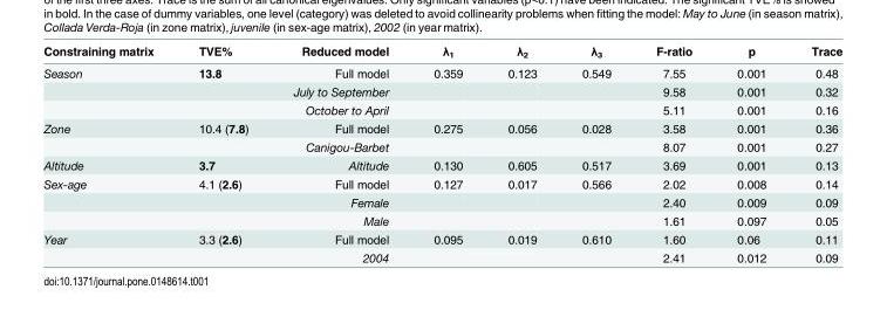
<table><thead><tr><td>Constraining matrix</td><td>TVE%</td><td>Reduced model</td><td>λ<sub>1</sub></td><td>λ<sub>2</sub></td><td>λ<sub>3</sub></td><td>F-ratio</td><td>p</td><td>Trace</td></tr></thead><tbody><tr><td rowspan="3">Season</td><td>13.8</td><td>Full model</td><td>0.359</td><td>0.123</td><td>0.549</td><td>7.55</td><td>0.001</td><td>0.48</td></tr><tr><td></td><td>July to September</td><td></td><td></td><td></td><td>9.58</td><td>0.001</td><td>0.32</td></tr><tr><td></td><td>October to April</td><td></td><td></td><td></td><td>5.11</td><td>0.001</td><td>0.16</td></tr><tr><td rowspan="2">Zone</td><td>10.4 (7.8)</td><td>Full model</td><td>0.275</td><td>0.056</td><td>0.028</td><td>3.58</td><td>0.001</td><td>0.36</td></tr><tr><td></td><td>Canigou-Barbet</td><td></td><td></td><td></td><td>8.07</td><td>0.001</td><td>0.27</td></tr><tr><td>Altitude</td><td>3.7</td><td>Altitude</td><td>0.130</td><td>0.605</td><td>0.517</td><td>3.69</td><td>0.001</td><td>0.13</td></tr><tr><td rowspan="3">Sex-age</td><td>4.1 (2.6)</td><td>Full model</td><td>0.127</td><td>0.017</td><td>0.566</td><td>2.02</td><td>0.008</td><td>0.14</td></tr><tr><td></td><td>Female</td><td></td><td></td><td></td><td>2.40</td><td>0.009</td><td>0.09</td></tr><tr><td></td><td>Male</td><td></td><td></td><td></td><td>1.61</td><td>0.097</td><td>0.05</td></tr><tr><td rowspan="2">Year</td><td>3.3 (2.6)</td><td>Full model</td><td>0.095</td><td>0.019</td><td>0.610</td><td>1.60</td><td>0.06</td><td>0.11</td></tr><tr><td></td><td>2004</td><td></td><td></td><td></td><td>2.41</td><td>0.012</td><td>0.09</td></tr></tbody></table>